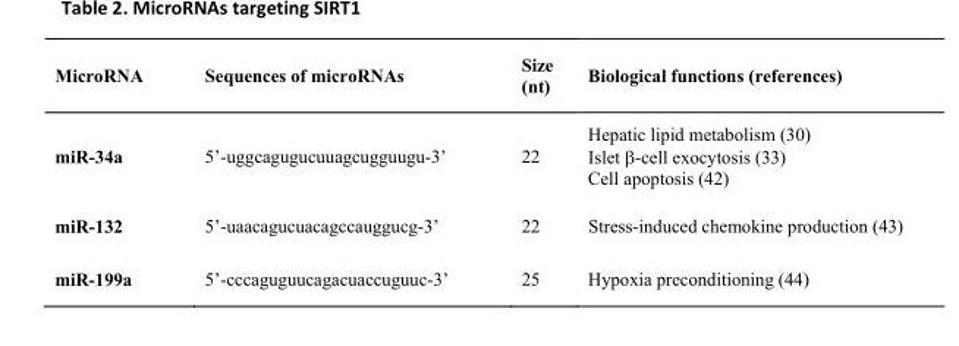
<table><thead><tr><td>MicroRNA</td><td>Sequences of microRNAs</td><td>Size (nt)</td><td>Biological functions (references)</td></tr></thead><tbody><tr><td>miR-34a</td><td>5’-uggcagugucuuagcugguugu-3’</td><td>22</td><td>Hepatic lipid metabolism (30) Islet β-cell exocytosis (33) Cell apoptosis (42)</td></tr><tr><td>miR-132</td><td>5’-uaacagucuacagccauggucg-3’</td><td>22</td><td>Stress-induced chemokine production (43)</td></tr><tr><td>miR-199a</td><td>5’-cccaguguucagacuaccuguuc-3’</td><td>25</td><td>Hypoxia preconditioning (44)</td></tr></tbody></table>